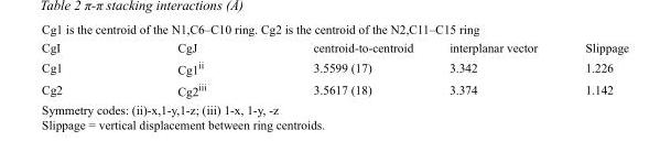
<table><tbody><tr><td>CgI</td><td>CgJ</td><td>centroid-to-centroid</td><td>interplanar vector</td><td>Slippage</td></tr><tr><td>Cg1</td><td>Cg1<sup>ii</sup></td><td>3.5599 (17)</td><td>3.342</td><td>1.226</td></tr><tr><td>Cg2</td><td>Cg2<sup>iii</sup></td><td>3.5617 (18)</td><td>3.374</td><td>1.142</td></tr></tbody></table>